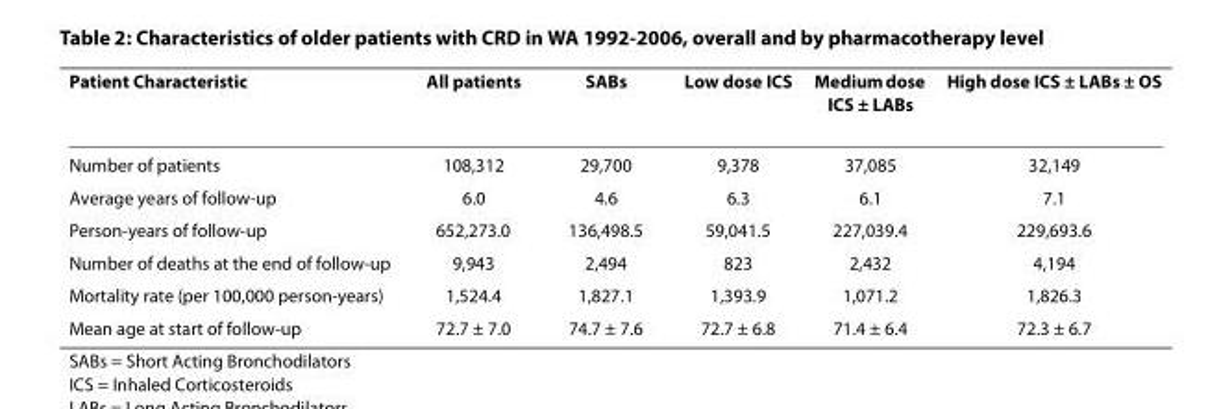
<table><thead><tr><td>Patient Characteristic</td><td>All patients</td><td>SABs</td><td>Low dose ICS</td><td>Medium dose ICS ± LABs</td><td>High dose ICS ± LABs ± OS</td></tr></thead><tbody><tr><td>Number of patients</td><td>108,312</td><td>29,700</td><td>9,378</td><td>37,085</td><td>32,149</td></tr><tr><td>Average years of follow-up</td><td>6.0</td><td>4.6</td><td>6.3</td><td>6.1</td><td>7.1</td></tr><tr><td>Person-years of follow-up</td><td>652,273.0</td><td>136,498.5</td><td>59,041.5</td><td>227,039.4</td><td>229,693.6</td></tr><tr><td>Number of deaths at the end of follow-up</td><td>9,943</td><td>2,494</td><td>823</td><td>2,432</td><td>4,194</td></tr><tr><td>Mortality rate (per 100,000 person-years)</td><td>1,524.4</td><td>1,827.1</td><td>1,393.9</td><td>1,071.2</td><td>1,826.3</td></tr><tr><td>Mean age at start of follow-up</td><td>72.7 ± 7.0</td><td>74.7 ± 7.6</td><td>72.7 ± 6.8</td><td>71.4 ± 6.4</td><td>72.3 ± 6.7</td></tr></tbody></table>